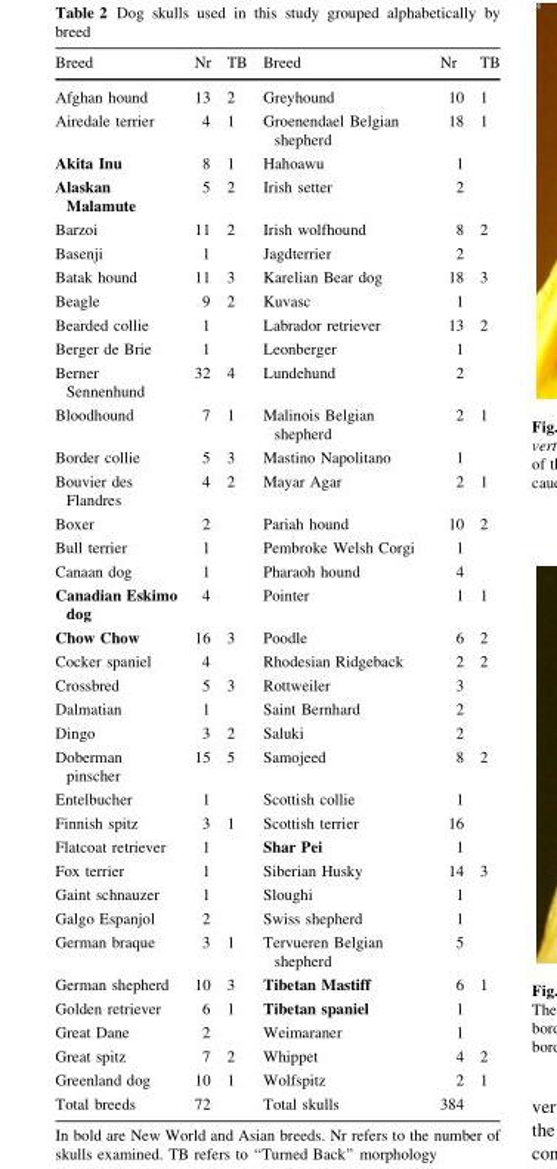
<table><thead><tr><td>Breed</td><td>Nr</td><td>TB</td><td>Breed</td><td>Nr</td><td>TB</td></tr></thead><tbody><tr><td>Afghan hound</td><td>13</td><td>2</td><td>Greyhound</td><td>10</td><td>1</td></tr><tr><td>Airedale terrier</td><td>4</td><td>1</td><td>Groenendael Belgian shepherd</td><td>18</td><td>1</td></tr><tr><td>Akita Inu</td><td>8</td><td>1</td><td>Hahoawu</td><td>1</td><td></td></tr><tr><td>Alaskan Malamute</td><td>5</td><td>2</td><td>Irish setter</td><td>2</td><td></td></tr><tr><td>Barzoi</td><td>11</td><td>2</td><td>Irish wolfhound</td><td>8</td><td>2</td></tr><tr><td>Basenji</td><td>1</td><td></td><td>Jagdterrier</td><td>2</td><td></td></tr><tr><td>Batak hound</td><td>11</td><td>3</td><td>Karelian Bear dog</td><td>18</td><td>3</td></tr><tr><td>Beagle</td><td>9</td><td>2</td><td>Kuvasc</td><td>1</td><td></td></tr><tr><td>Bearded collie</td><td>1</td><td></td><td>Labrador retriever</td><td>13</td><td>2</td></tr><tr><td>Berger de Brie</td><td>1</td><td></td><td>Leonberger</td><td>1</td><td></td></tr><tr><td>Berner Sennenhund</td><td>32</td><td>4</td><td>Lundehund</td><td>2</td><td></td></tr><tr><td>Bloodhound</td><td>7</td><td>1</td><td>Malinois Belgian shepherd</td><td>2</td><td>1</td></tr><tr><td>Border collie</td><td>5</td><td>3</td><td>Mastino Napolitano</td><td>1</td><td></td></tr><tr><td>Bouvier des Flandres</td><td>4</td><td>2</td><td>Mayar Agar</td><td>2</td><td>1</td></tr><tr><td>Boxer</td><td>2</td><td></td><td>Pariah hound</td><td>10</td><td>2</td></tr><tr><td>Bull terrier</td><td>1</td><td></td><td>Pembroke Welsh Corgi</td><td>1</td><td></td></tr><tr><td>Canaan dog</td><td>1</td><td></td><td>Pharaoh hound</td><td>4</td><td></td></tr><tr><td>Canadian Eskimo dog</td><td>4</td><td></td><td>Pointer</td><td>1</td><td>1</td></tr><tr><td>Chow Chow</td><td>16</td><td>3</td><td>Poodle</td><td>6</td><td>2</td></tr><tr><td>Cocker spaniel</td><td>4</td><td></td><td>Rhodesian Ridgeback</td><td>2</td><td>2</td></tr><tr><td>Crossbred</td><td>5</td><td>3</td><td>Rottweiler</td><td>3</td><td></td></tr><tr><td>Dalmatian</td><td>1</td><td></td><td>Saint Bernhard</td><td>2</td><td></td></tr><tr><td>Dingo</td><td>3</td><td>2</td><td>Saluki</td><td>2</td><td></td></tr><tr><td>Doberman pinscher</td><td>15</td><td>5</td><td>Samojeed</td><td>8</td><td>2</td></tr><tr><td>Entelbucher</td><td>1</td><td></td><td>Scottish collie</td><td>1</td><td></td></tr><tr><td>Finnish spitz</td><td>3</td><td>1</td><td>Scottish terrier</td><td>16</td><td></td></tr><tr><td>Flatcoat retriever</td><td>1</td><td></td><td>Shar Pei</td><td>1</td><td></td></tr><tr><td>Fox terrier</td><td>1</td><td></td><td>Siberian Husky</td><td>14</td><td>3</td></tr><tr><td>Gaint schnauzer</td><td>1</td><td></td><td>Sloughi</td><td>1</td><td></td></tr><tr><td>Galgo Espanjol</td><td>2</td><td></td><td>Swiss shepherd</td><td>1</td><td></td></tr><tr><td>German braque</td><td>3</td><td>1</td><td>Tervueren Belgian shepherd</td><td>5</td><td></td></tr><tr><td>German shepherd</td><td>10</td><td>3</td><td>Tibetan Mastiff</td><td>6</td><td>1</td></tr><tr><td>Golden retriever</td><td>6</td><td>1</td><td>Tibetan spaniel</td><td>1</td><td></td></tr><tr><td>Great Dane</td><td>2</td><td></td><td>Weimaraner</td><td>1</td><td></td></tr><tr><td>Great spitz</td><td>7</td><td>2</td><td>Whippet</td><td>4</td><td>2</td></tr><tr><td>Greenland dog</td><td>10</td><td>1</td><td>Wolfspitz</td><td>2</td><td>1</td></tr><tr><td>Total breeds</td><td>72</td><td></td><td>Total skulls</td><td>384</td><td></td></tr></tbody></table>